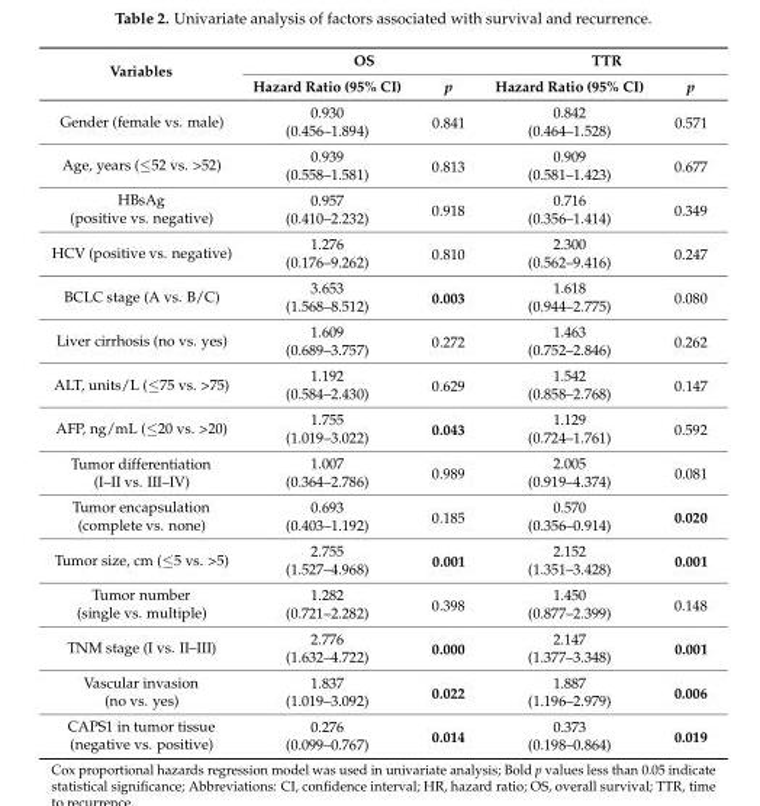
<table><thead><tr><td rowspan="2">Variables</td><td colspan="2">OS</td><td colspan="2">TTR</td></tr><tr><td>Hazard Ratio (95% CI)</td><td>p</td><td>Hazard Ratio (95% CI)</td><td>p</td></tr></thead><tbody><tr><td rowspan="2">Gender (female vs. male)</td><td>0.930</td><td rowspan="2">0.841</td><td>0.842</td><td rowspan="2">0.571</td></tr><tr><td>(0.456–1.894)</td><td>(0.464–1.528)</td></tr><tr><td rowspan="2">Age, years (≤52 vs. &gt;52)</td><td>0.939</td><td rowspan="2">0.813</td><td>0.909</td><td rowspan="2">0.677</td></tr><tr><td>(0.558–1.581)</td><td>(0.581–1.423)</td></tr><tr><td rowspan="2">HBsAg (positive vs. negative)</td><td>0.957</td><td rowspan="2">0.918</td><td>0.716</td><td rowspan="2">0.349</td></tr><tr><td>(0.410–2.232)</td><td>(0.356–1.414)</td></tr><tr><td rowspan="2">HCV (positive vs. negative)</td><td>1.276</td><td rowspan="2">0.810</td><td>2.300</td><td rowspan="2">0.247</td></tr><tr><td>(0.176–9.262)</td><td>(0.562–9.416)</td></tr><tr><td rowspan="2">BCLC stage (A vs. B/C)</td><td>3.653</td><td rowspan="2">0.003</td><td>1.618</td><td rowspan="2">0.080</td></tr><tr><td>(1.568–8.512)</td><td>(0.944–2.775)</td></tr><tr><td rowspan="2">Liver cirrhosis (no vs. yes)</td><td>1.609</td><td rowspan="2">0.272</td><td>1.463</td><td rowspan="2">0.262</td></tr><tr><td>(0.689–3.757)</td><td>(0.752–2.846)</td></tr><tr><td rowspan="2">ALT, units/L (≤75 vs. &gt;75)</td><td>1.192</td><td rowspan="2">0.629</td><td>1.542</td><td rowspan="2">0.147</td></tr><tr><td>(0.584–2.430)</td><td>(0.858–2.768)</td></tr><tr><td rowspan="2">AFP, ng/mL (≤20 vs. &gt;20)</td><td>1.755</td><td rowspan="2">0.043</td><td>1.129</td><td rowspan="2">0.592</td></tr><tr><td>(1.019–3.022)</td><td>(0.724–1.761)</td></tr><tr><td rowspan="2">Tumor differentiation (I–II vs. III–IV)</td><td>1.007</td><td rowspan="2">0.989</td><td>2.005</td><td rowspan="2">0.081</td></tr><tr><td>(0.364–2.786)</td><td>(0.919–4.374)</td></tr><tr><td rowspan="2">Tumor encapsulation (complete vs. none)</td><td>0.693</td><td rowspan="2">0.185</td><td>0.570</td><td rowspan="2">0.020</td></tr><tr><td>(0.403–1.192)</td><td>(0.356–0.914)</td></tr><tr><td rowspan="2">Tumor size, cm (≤5 vs. &gt;5)</td><td>2.755</td><td rowspan="2">0.001</td><td>2.152</td><td rowspan="2">0.001</td></tr><tr><td>(1.527–4.968)</td><td>(1.351–3.428)</td></tr><tr><td rowspan="2">Tumor number (single vs. multiple)</td><td>1.282</td><td rowspan="2">0.398</td><td>1.450</td><td rowspan="2">0.148</td></tr><tr><td>(0.721–2.282)</td><td>(0.877–2.399)</td></tr><tr><td rowspan="2">TNM stage (I vs. II–III)</td><td>2.776</td><td rowspan="2">0.000</td><td>2.147</td><td rowspan="2">0.001</td></tr><tr><td>(1.632–4.722)</td><td>(1.377–3.348)</td></tr><tr><td rowspan="2">Vascular invasion (no vs. yes)</td><td>1.837</td><td rowspan="2">0.022</td><td>1.887</td><td rowspan="2">0.006</td></tr><tr><td>(1.019–3.092)</td><td>(1.196–2.979)</td></tr><tr><td rowspan="2">CAPS1 in tumor tissue (negative vs. positive)</td><td>0.276</td><td rowspan="2">0.014</td><td>0.373</td><td rowspan="2">0.019</td></tr><tr><td>(0.099–0.767)</td><td>(0.198–0.864)</td></tr></tbody></table>